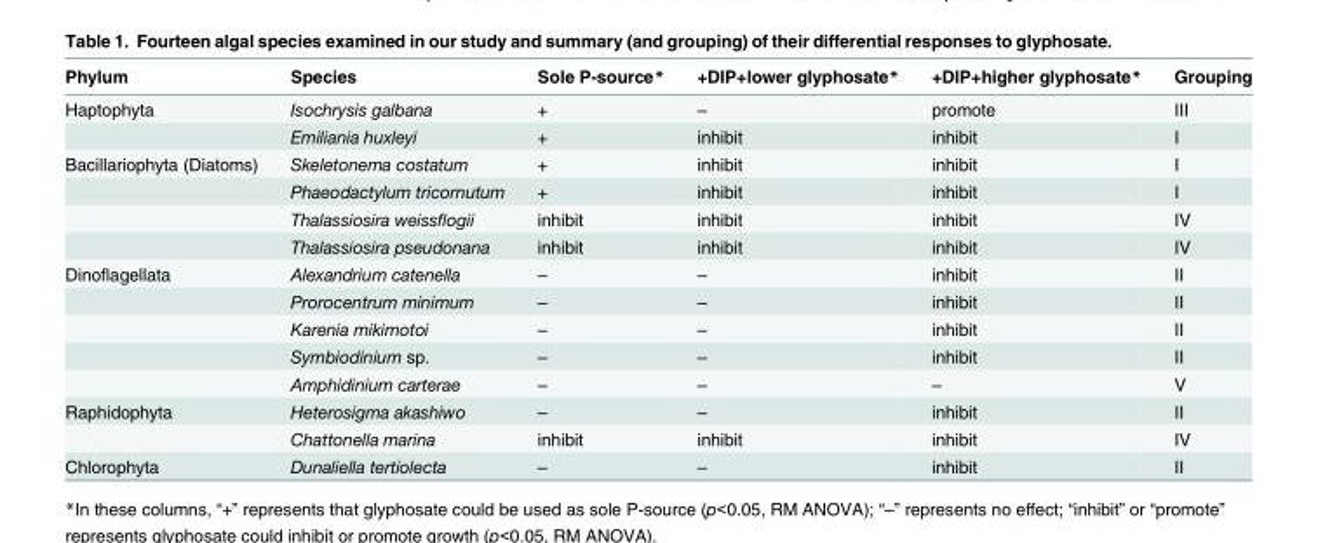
<table><thead><tr><td>Phylum</td><td>Species</td><td>Sole P-source*</td><td>+DIP+lower glyphosate*</td><td>+DIP+higher glyphosate*</td><td>Grouping</td></tr></thead><tbody><tr><td rowspan="2">Haptophyta</td><td>Isochrysis galbana</td><td>+</td><td>–</td><td>promote</td><td>III</td></tr><tr><td>Emiliania huxleyi</td><td>+</td><td>inhibit</td><td>inhibit</td><td>I</td></tr><tr><td rowspan="4">Bacillariophyta (Diatoms)</td><td>Skeletonema costatum</td><td>+</td><td>inhibit</td><td>inhibit</td><td>I</td></tr><tr><td>Phaeodactylum tricornutum</td><td>+</td><td>inhibit</td><td>inhibit</td><td>I</td></tr><tr><td>Thalassiosira weissflogii</td><td>inhibit</td><td>inhibit</td><td>inhibit</td><td>IV</td></tr><tr><td>Thalassiosira pseudonana</td><td>inhibit</td><td>inhibit</td><td>inhibit</td><td>IV</td></tr><tr><td rowspan="5">Dinoflagellata</td><td>Alexandrium catenella</td><td>–</td><td>–</td><td>inhibit</td><td>II</td></tr><tr><td>Prorocentrum minimum</td><td>–</td><td>–</td><td>inhibit</td><td>II</td></tr><tr><td>Karenia mikimotoi</td><td>–</td><td>–</td><td>inhibit</td><td>II</td></tr><tr><td>Symbiodinium sp.</td><td>–</td><td>–</td><td>inhibit</td><td>II</td></tr><tr><td>Amphidinium carterae</td><td>–</td><td>–</td><td>–</td><td>V</td></tr><tr><td rowspan="2">Raphidophyta</td><td>Heterosigma akashiwo</td><td>–</td><td>–</td><td>inhibit</td><td>II</td></tr><tr><td>Chattonella marina</td><td>inhibit</td><td>inhibit</td><td>inhibit</td><td>IV</td></tr><tr><td>Chlorophyta</td><td>Dunaliella tertiolecta</td><td>–</td><td>–</td><td>inhibit</td><td>II</td></tr></tbody></table>